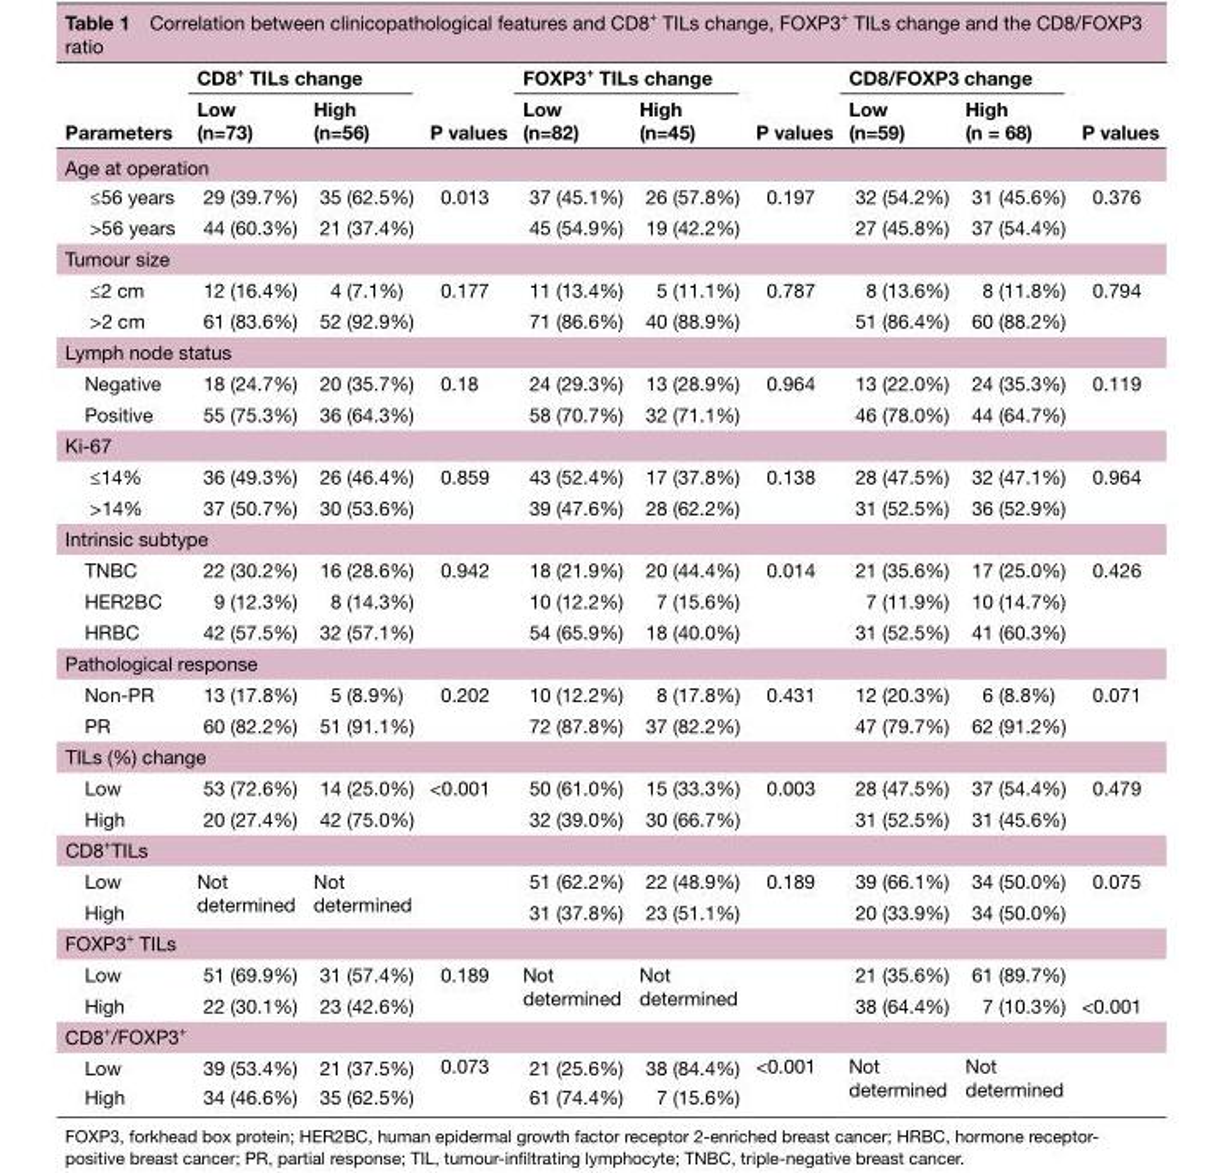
<table><thead><tr><td rowspan="2">Parameters</td><td colspan="2">CD8<sup>+</sup> TILs change</td><td rowspan="2">P values</td><td colspan="2">FOXP3<sup>+</sup> TILs change</td><td rowspan="2">P values</td><td colspan="2">CD8/FOXP3 change</td><td rowspan="2">P values</td></tr><tr><td>Low (n=73)</td><td>High (n=56)</td><td>Low (n=82)</td><td>High (n=45)</td><td>Low (n=59)</td><td>High (n = 68)</td></tr></thead><tbody><tr><td colspan="10">Age at operation</td></tr><tr><td>≤56 years</td><td>29 (39.7%)</td><td>35 (62.5%)</td><td rowspan="2">0.013</td><td>37 (45.1%)</td><td>26 (57.8%)</td><td rowspan="2">0.197</td><td>32 (54.2%)</td><td>31 (45.6%)</td><td rowspan="2">0.376</td></tr><tr><td>&gt;56 years</td><td>44 (60.3%)</td><td>21 (37.4%)</td><td>45 (54.9%)</td><td>19 (42.2%)</td><td>27 (45.8%)</td><td>37 (54.4%)</td></tr><tr><td colspan="10">Tumour size</td></tr><tr><td>≤2 cm</td><td>12 (16.4%)</td><td>4 (7.1%)</td><td rowspan="2">0.177</td><td>11 (13.4%)</td><td>5 (11.1%)</td><td rowspan="2">0.787</td><td>8 (13.6%)</td><td>8 (11.8%)</td><td rowspan="2">0.794</td></tr><tr><td>&gt;2 cm</td><td>61 (83.6%)</td><td>52 (92.9%)</td><td>71 (86.6%)</td><td>40 (88.9%)</td><td>51 (86.4%)</td><td>60 (88.2%)</td></tr><tr><td colspan="10">Lymph node status</td></tr><tr><td>Negative</td><td>18 (24.7%)</td><td>20 (35.7%)</td><td rowspan="2">0.18</td><td>24 (29.3%)</td><td>13 (28.9%)</td><td rowspan="2">0.964</td><td>13 (22.0%)</td><td>24 (35.3%)</td><td rowspan="2">0.119</td></tr><tr><td>Positive</td><td>55 (75.3%)</td><td>36 (64.3%)</td><td>58 (70.7%)</td><td>32 (71.1%)</td><td>46 (78.0%)</td><td>44 (64.7%)</td></tr><tr><td colspan="10">Ki-67</td></tr><tr><td>≤14%</td><td>36 (49.3%)</td><td>26 (46.4%)</td><td rowspan="2">0.859</td><td>43 (52.4%)</td><td>17 (37.8%)</td><td rowspan="2">0.138</td><td>28 (47.5%)</td><td>32 (47.1%)</td><td rowspan="2">0.964</td></tr><tr><td>&gt;14%</td><td>37 (50.7%)</td><td>30 (53.6%)</td><td>39 (47.6%)</td><td>28 (62.2%)</td><td>31 (52.5%)</td><td>36 (52.9%)</td></tr><tr><td colspan="10">Intrinsic subtype</td></tr><tr><td>TNBC</td><td>22 (30.2%)</td><td>16 (28.6%)</td><td rowspan="3">0.942</td><td>18 (21.9%)</td><td>20 (44.4%)</td><td rowspan="3">0.014</td><td>21 (35.6%)</td><td>17 (25.0%)</td><td rowspan="3">0.426</td></tr><tr><td>HER2BC</td><td>9 (12.3%)</td><td>8 (14.3%)</td><td>10 (12.2%)</td><td>7 (15.6%)</td><td>7 (11.9%)</td><td>10 (14.7%)</td></tr><tr><td>HRBC</td><td>42 (57.5%)</td><td>32 (57.1%)</td><td>54 (65.9%)</td><td>18 (40.0%)</td><td>31 (52.5%)</td><td>41 (60.3%)</td></tr><tr><td colspan="10">Pathological response</td></tr><tr><td>Non-PR</td><td>13 (17.8%)</td><td>5 (8.9%)</td><td rowspan="2">0.202</td><td>10 (12.2%)</td><td>8 (17.8%)</td><td rowspan="2">0.431</td><td>12 (20.3%)</td><td>6 (8.8%)</td><td rowspan="2">0.071</td></tr><tr><td>PR</td><td>60 (82.2%)</td><td>51 (91.1%)</td><td>72 (87.8%)</td><td>37 (82.2%)</td><td>47 (79.7%)</td><td>62 (91.2%)</td></tr><tr><td colspan="10">TILs (%) change</td></tr><tr><td>Low</td><td>53 (72.6%)</td><td>14 (25.0%)</td><td rowspan="2">&lt;0.001</td><td>50 (61.0%)</td><td>15 (33.3%)</td><td rowspan="2">0.003</td><td>28 (47.5%)</td><td>37 (54.4%)</td><td rowspan="2">0.479</td></tr><tr><td>High</td><td>20 (27.4%)</td><td>42 (75.0%)</td><td>32 (39.0%)</td><td>30 (66.7%)</td><td>31 (52.5%)</td><td>31 (45.6%)</td></tr><tr><td colspan="10">CD8<sup>+</sup>TILs</td></tr><tr><td>Low</td><td rowspan="2">Not determined</td><td rowspan="2">Not determined</td><td rowspan="2"></td><td>51 (62.2%)</td><td>22 (48.9%)</td><td rowspan="2">0.189</td><td>39 (66.1%)</td><td>34 (50.0%)</td><td rowspan="2">0.075</td></tr><tr><td>High</td><td>31 (37.8%)</td><td>23 (51.1%)</td><td>20 (33.9%)</td><td>34 (50.0%)</td></tr><tr><td colspan="10">FOXP3<sup>+</sup> TILs</td></tr><tr><td>Low</td><td>51 (69.9%)</td><td>31 (57.4%)</td><td rowspan="2">0.189</td><td rowspan="2">Not determined</td><td rowspan="2">Not determined</td><td rowspan="2"></td><td>21 (35.6%)</td><td>61 (89.7%)</td><td></td></tr><tr><td>High</td><td>22 (30.1%)</td><td>23 (42.6%)</td><td>38 (64.4%)</td><td>7 (10.3%)</td><td>&lt;0.001</td></tr><tr><td colspan="10">CD8<sup>+</sup>/FOXP3<sup>+</sup></td></tr><tr><td>Low</td><td>39 (53.4%)</td><td>21 (37.5%)</td><td rowspan="2">0.073</td><td>21 (25.6%)</td><td>38 (84.4%)</td><td rowspan="2">&lt;0.001</td><td rowspan="2">Not determined</td><td rowspan="2">Not determined</td><td rowspan="2"></td></tr><tr><td>High</td><td>34 (46.6%)</td><td>35 (62.5%)</td><td>61 (74.4%)</td><td>7 (15.6%)</td></tr></tbody></table>